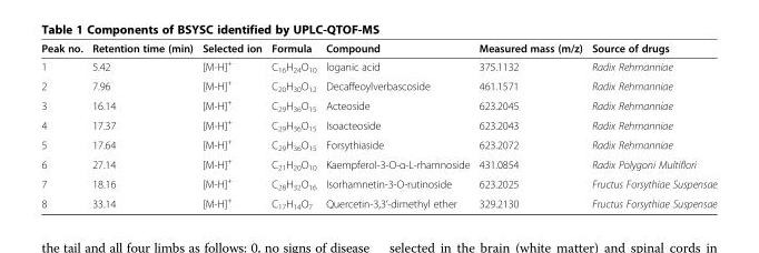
<table><thead><tr><td>Peak no.</td><td>Retention time (min)</td><td>Selected ion</td><td>Formula</td><td>Compound</td><td>Measured mass (m/z)</td><td>Source of drugs</td></tr></thead><tbody><tr><td>1</td><td>5.42</td><td>[M-H]<sup>+</sup></td><td>C<sub>16</sub>H<sub>24</sub>O<sub>10</sub></td><td>loganic acid</td><td>375.1132</td><td>Radix Rehmanniae</td></tr><tr><td>2</td><td>7.96</td><td>[M-H]<sup>+</sup></td><td>C<sub>20</sub>H<sub>30</sub>O<sub>12</sub></td><td>Decaffeoylverbascoside</td><td>461.1571</td><td>Radix Rehmanniae</td></tr><tr><td>3</td><td>16.14</td><td>[M-H]<sup>+</sup></td><td>C<sub>29</sub>H<sub>36</sub>O<sub>15</sub></td><td>Acteoside</td><td>623.2045</td><td>Radix Rehmanniae</td></tr><tr><td>4</td><td>17.37</td><td>[M-H]<sup>+</sup></td><td>C<sub>29</sub>H<sub>36</sub>O<sub>15</sub></td><td>Isoacteoside</td><td>623.2043</td><td>Radix Rehmanniae</td></tr><tr><td>5</td><td>17.64</td><td>[M-H]<sup>+</sup></td><td>C<sub>29</sub>H<sub>36</sub>O<sub>15</sub></td><td>Forsythiaside</td><td>623.2072</td><td>Radix Rehmanniae</td></tr><tr><td>6</td><td>27.14</td><td>[M-H]<sup>+</sup></td><td>C<sub>21</sub>H<sub>20</sub>O<sub>10</sub></td><td>Kaempferol-3-O-α-L-rhamnoside</td><td>431.0854</td><td>Radix Polygoni Multiflori</td></tr><tr><td>7</td><td>18.16</td><td>[M-H]<sup>+</sup></td><td>C<sub>28</sub>H<sub>32</sub>O<sub>16</sub></td><td>Isorhamnetin-3-O-rutinoside</td><td>623.2025</td><td>Fructus Forsythiae Suspensae</td></tr><tr><td>8</td><td>33.14</td><td>[M-H]<sup>+</sup></td><td>C<sub>17</sub>H<sub>14</sub>O<sub>7</sub></td><td>Quercetin-3,3’-dimethyl ether</td><td>329.2130</td><td>Fructus Forsythiae Suspensae</td></tr></tbody></table>